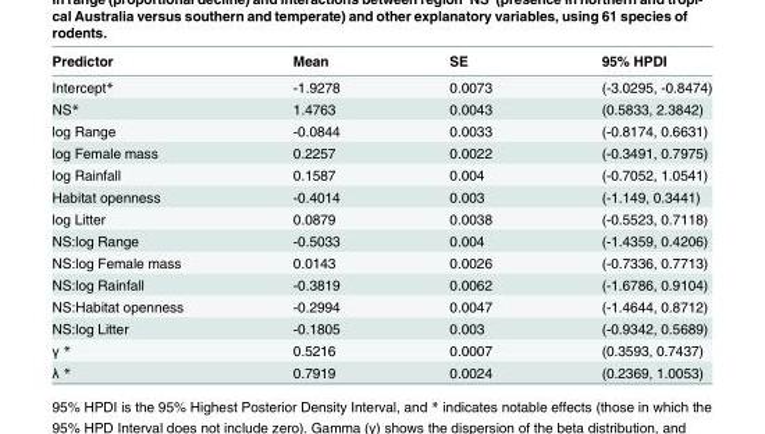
<table><thead><tr><td>Predictor</td><td>Mean</td><td>SE</td><td>95% HPDI</td></tr></thead><tbody><tr><td>Intercept*</td><td>-1.9278</td><td>0.0073</td><td>(-3.0295, -0.8474)</td></tr><tr><td>NS*</td><td>1.4763</td><td>0.0043</td><td>(0.5833, 2.3842)</td></tr><tr><td>log Range</td><td>-0.0844</td><td>0.0033</td><td>(-0.8174, 0.6631)</td></tr><tr><td>log Female mass</td><td>0.2257</td><td>0.0022</td><td>(-0.3491, 0.7975)</td></tr><tr><td>log Rainfall</td><td>0.1587</td><td>0.004</td><td>(-0.7052, 1.0541)</td></tr><tr><td>Habitat openness</td><td>-0.4014</td><td>0.003</td><td>(-1.149, 0.3441)</td></tr><tr><td>log Litter</td><td>0.0879</td><td>0.0038</td><td>(-0.5523, 0.7118)</td></tr><tr><td>NS:log Range</td><td>-0.5033</td><td>0.004</td><td>(-1.4359, 0.4206)</td></tr><tr><td>NS:log Female mass</td><td>0.0143</td><td>0.0026</td><td>(-0.7336, 0.7713)</td></tr><tr><td>NS:log Rainfall</td><td>-0.3819</td><td>0.0062</td><td>(-1.6786, 0.9104)</td></tr><tr><td>NS:Habitat openness</td><td>-0.2994</td><td>0.0047</td><td>(-1.4644, 0.8712)</td></tr><tr><td>NS:log Litter</td><td>-0.1805</td><td>0.003</td><td>(-0.9342, 0.5689)</td></tr><tr><td>γ *</td><td>0.5216</td><td>0.0007</td><td>(0.3593, 0.7437)</td></tr><tr><td>λ *</td><td>0.7919</td><td>0.0024</td><td>(0.2369, 1.0053)</td></tr></tbody></table>